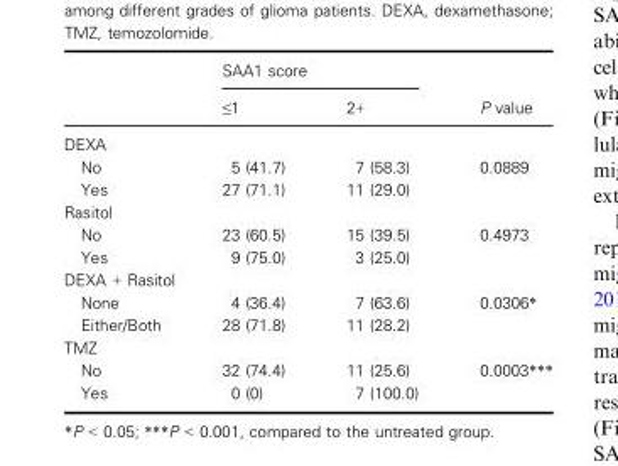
<table><thead><tr><td rowspan="2"></td><td colspan="2">SAA1 score</td><td rowspan="2">P value</td></tr><tr><td>≤1</td><td>2+</td></tr></thead><tbody><tr><td colspan="4">DEXA</td></tr><tr><td>No</td><td>5 (41.7)</td><td>7 (58.3)</td><td>0.0889</td></tr><tr><td>Yes</td><td>27 (71.1)</td><td>11 (29.0)</td><td></td></tr><tr><td colspan="4">Rasitol</td></tr><tr><td>No</td><td>23 (60.5)</td><td>15 (39.5)</td><td>0.4973</td></tr><tr><td>Yes</td><td>9 (75.0)</td><td>3 (25.0)</td><td></td></tr><tr><td colspan="4">DEXA + Rasitol</td></tr><tr><td>None</td><td>4 (36.4)</td><td>7 (63.6)</td><td>0.0306*</td></tr><tr><td>Either/Both</td><td>28 (71.8)</td><td>11 (28.2)</td><td></td></tr><tr><td colspan="4">TMZ</td></tr><tr><td>No</td><td>32 (74.4)</td><td>11 (25.6)</td><td>0.0003***</td></tr><tr><td>Yes</td><td>0 (0)</td><td>7 (100.0)</td><td></td></tr></tbody></table>